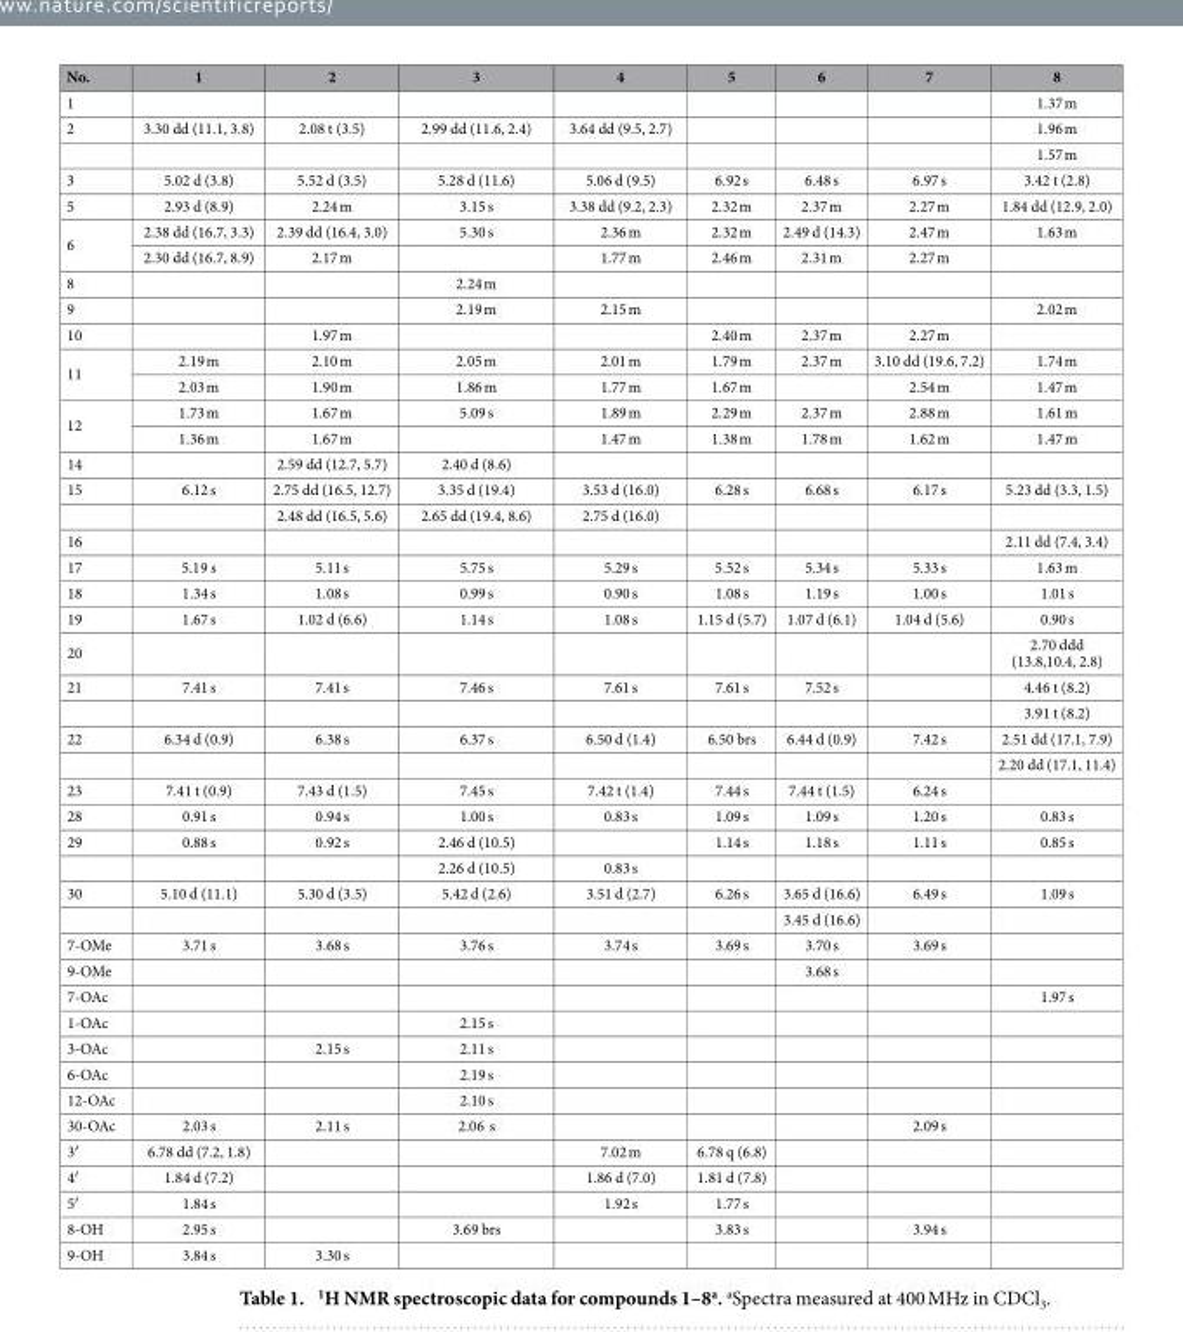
<table><thead><tr><td>No.</td><td>1</td><td>2</td><td>3</td><td>4</td><td>5</td><td>6</td><td>7</td><td>8</td></tr></thead><tbody><tr><td>1</td><td></td><td></td><td></td><td></td><td></td><td></td><td></td><td>1.37 m</td></tr><tr><td rowspan="2">2</td><td>3.30 dd (11.1, 3.8)</td><td>2.08 t (3.5)</td><td>2.99 dd (11.6, 2.4)</td><td>3.64 dd (9.5, 2.7)</td><td></td><td></td><td></td><td>1.96 m</td></tr><tr><td></td><td></td><td></td><td></td><td></td><td></td><td></td><td>1.57 m</td></tr><tr><td>3</td><td>5.02 d (3.8)</td><td>5.52 d (3.5)</td><td>5.28 d (11.6)</td><td>5.06 d (9.5)</td><td>6.92 s</td><td>6.48 s</td><td>6.97 s</td><td>3.42 t (2.8)</td></tr><tr><td>5</td><td>2.93 d (8.9)</td><td>2.24 m</td><td>3.15 s</td><td>3.38 dd (9.2, 2.3)</td><td>2.32 m</td><td>2.37 m</td><td>2.27 m</td><td>1.84 dd (12.9, 2.0)</td></tr><tr><td rowspan="2">6</td><td>2.38 dd (16.7, 3.3)</td><td>2.39 dd (16.4, 3.0)</td><td>5.30 s</td><td>2.36 m</td><td>2.32 m</td><td>2.49 d (14.3)</td><td>2.47 m</td><td>1.63 m</td></tr><tr><td>2.30 dd (16.7, 8.9)</td><td>2.17 m</td><td></td><td>1.77 m</td><td>2.46 m</td><td>2.31 m</td><td>2.27 m</td><td></td></tr><tr><td>8</td><td></td><td></td><td>2.24 m</td><td></td><td></td><td></td><td></td><td></td></tr><tr><td>9</td><td></td><td></td><td>2.19 m</td><td>2.15 m</td><td></td><td></td><td></td><td>2.02 m</td></tr><tr><td>10</td><td></td><td>1.97 m</td><td></td><td></td><td>2.40 m</td><td>2.37 m</td><td>2.27 m</td><td></td></tr><tr><td rowspan="2">11</td><td>2.19 m</td><td>2.10 m</td><td>2.05 m</td><td>2.01 m</td><td>1.79 m</td><td>2.37 m</td><td>3.10 dd (19.6, 7.2)</td><td>1.74 m</td></tr><tr><td>2.03 m</td><td>1.90 m</td><td>1.86 m</td><td>1.77 m</td><td>1.67 m</td><td></td><td>2.54 m</td><td>1.47 m</td></tr><tr><td rowspan="2">12</td><td>1.73 m</td><td>1.67 m</td><td>5.09 s</td><td>1.89 m</td><td>2.29 m</td><td>2.37 m</td><td>2.88 m</td><td>1.61 m</td></tr><tr><td>1.36 m</td><td>1.67 m</td><td></td><td>1.47 m</td><td>1.38 m</td><td>1.78 m</td><td>1.62 m</td><td>1.47 m</td></tr><tr><td>14</td><td></td><td>2.59 dd (12.7, 5.7)</td><td>2.40 d (8.6)</td><td></td><td></td><td></td><td></td><td></td></tr><tr><td rowspan="2">15</td><td>6.12 s</td><td>2.75 dd (16.5, 12.7)</td><td>3.35 d (19.4)</td><td>3.53 d (16.0)</td><td>6.28 s</td><td>6.68 s</td><td>6.17 s</td><td>5.23 dd (3.3, 1.5)</td></tr><tr><td></td><td>2.48 dd (16.5, 5.6)</td><td>2.65 dd (19.4, 8.6)</td><td>2.75 d (16.0)</td><td></td><td></td><td></td><td></td></tr><tr><td>16</td><td></td><td></td><td></td><td></td><td></td><td></td><td></td><td>2.11 dd (7.4, 3.4)</td></tr><tr><td>17</td><td>5.19 s</td><td>5.11 s</td><td>5.75 s</td><td>5.29 s</td><td>5.52 s</td><td>5.34 s</td><td>5.33 s</td><td>1.63 m</td></tr><tr><td>18</td><td>1.34 s</td><td>1.08 s</td><td>0.99 s</td><td>0.90 s</td><td>1.08 s</td><td>1.19 s</td><td>1.00 s</td><td>1.01 s</td></tr><tr><td>19</td><td>1.67 s</td><td>1.02 d (6.6)</td><td>1.14 s</td><td>1.08 s</td><td>1.15 d (5.7)</td><td>1.07 d (6.1)</td><td>1.04 d (5.6)</td><td>0.90 s</td></tr><tr><td>20</td><td></td><td></td><td></td><td></td><td></td><td></td><td></td><td>2.70 ddd (13.8,10.4, 2.8)</td></tr><tr><td rowspan="2">21</td><td>7.41 s</td><td>7.41 s</td><td>7.46 s</td><td>7.61 s</td><td>7.61 s</td><td>7.52 s</td><td></td><td>4.46 t (8.2)</td></tr><tr><td></td><td></td><td></td><td></td><td></td><td></td><td></td><td>3.91 t (8.2)</td></tr><tr><td rowspan="2">22</td><td>6.34 d (0.9)</td><td>6.38 s</td><td>6.37 s</td><td>6.50 d (1.4)</td><td>6.50 brs</td><td>6.44 d (0.9)</td><td>7.42 s</td><td>2.51 dd (17.1, 7.9)</td></tr><tr><td></td><td></td><td></td><td></td><td></td><td></td><td></td><td>2.20 dd (17.1, 11.4)</td></tr><tr><td>23</td><td>7.41 t (0.9)</td><td>7.43 d (1.5)</td><td>7.45 s</td><td>7.42 t (1.4)</td><td>7.44 s</td><td>7.44 t (1.5)</td><td>6.24 s</td><td></td></tr><tr><td>28</td><td>0.91 s</td><td>0.94 s</td><td>1.00 s</td><td>0.83 s</td><td>1.09 s</td><td>1.09 s</td><td>1.20 s</td><td>0.83 s</td></tr><tr><td rowspan="2">29</td><td>0.88 s</td><td>0.92 s</td><td>2.46 d (10.5)</td><td></td><td>1.14 s</td><td>1.18 s</td><td>1.11 s</td><td>0.85 s</td></tr><tr><td></td><td></td><td>2.26 d (10.5)</td><td>0.83 s</td><td></td><td></td><td></td><td></td></tr><tr><td rowspan="2">30</td><td>5.10 d (11.1)</td><td>5.30 d (3.5)</td><td>5.42 d (2.6)</td><td>3.51 d (2.7)</td><td>6.26 s</td><td>3.65 d (16.6)</td><td>6.49 s</td><td>1.09 s</td></tr><tr><td></td><td></td><td></td><td></td><td></td><td>3.45 d (16.6)</td><td></td><td></td></tr><tr><td>7-OMe</td><td>3.71 s</td><td>3.68 s</td><td>3.76 s</td><td>3.74 s</td><td>3.69 s</td><td>3.70 s</td><td>3.69 s</td><td></td></tr><tr><td>9-OMe</td><td></td><td></td><td></td><td></td><td></td><td>3.68 s</td><td></td><td></td></tr><tr><td>7-OAc</td><td></td><td></td><td></td><td></td><td></td><td></td><td></td><td>1.97 s</td></tr><tr><td>1-OAc</td><td></td><td></td><td>2.15 s</td><td></td><td></td><td></td><td></td><td></td></tr><tr><td>3-OAc</td><td></td><td>2.15 s</td><td>2.11 s</td><td></td><td></td><td></td><td></td><td></td></tr><tr><td>6-OAc</td><td></td><td></td><td>2.19 s</td><td></td><td></td><td></td><td></td><td></td></tr><tr><td>12-OAc</td><td></td><td></td><td>2.10 s</td><td></td><td></td><td></td><td></td><td></td></tr><tr><td>30-OAc</td><td>2.03 s</td><td>2.11 s</td><td>2.06 s</td><td></td><td></td><td></td><td>2.09 s</td><td></td></tr><tr><td>3′</td><td>6.78 dd (7.2, 1.8)</td><td></td><td></td><td>7.02 m</td><td>6.78 q (6.8)</td><td></td><td></td><td></td></tr><tr><td>4′</td><td>1.84 d (7.2)</td><td></td><td></td><td>1.86 d (7.0)</td><td>1.81 d (7.8)</td><td></td><td></td><td></td></tr><tr><td>5′</td><td>1.84 s</td><td></td><td></td><td>1.92 s</td><td>1.77 s</td><td></td><td></td><td></td></tr><tr><td>8-OH</td><td>2.95 s</td><td></td><td>3.69 brs</td><td></td><td>3.83 s</td><td></td><td>3.94 s</td><td></td></tr><tr><td>9-OH</td><td>3.84 s</td><td>3.30 s</td><td></td><td></td><td></td><td></td><td></td><td></td></tr></tbody></table>